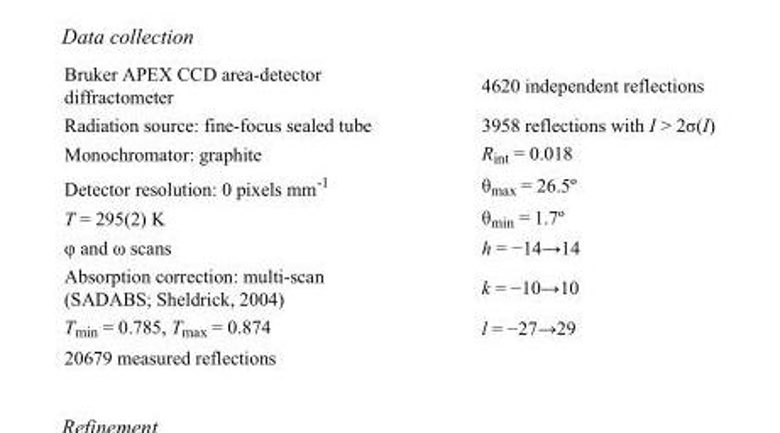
<table><tbody><tr><td>Bruker APEX CCD area-detector diffractometer</td><td>4620 independent reflections</td></tr><tr><td>Radiation source: fine-focus sealed tube</td><td>3958 reflections with I &gt; 2σ(I)</td></tr><tr><td>Monochromator: graphite</td><td>R<sub>int</sub> = 0.018</td></tr><tr><td>Detector resolution: 0 pixels mm<sup>-1</sup></td><td>θ<sub>max</sub> = 26.5º</td></tr><tr><td>T = 295(2) K</td><td>θ<sub>min</sub> = 1.7º</td></tr><tr><td>φ and ω scans</td><td>h = −14→14</td></tr><tr><td>Absorption correction: multi-scan (SADABS; Sheldrick, 2004)</td><td>k = −10→10</td></tr><tr><td>T<sub>min</sub> = 0.785, T<sub>max</sub> = 0.874</td><td>l = −27→29</td></tr><tr><td>20679 measured reflections</td><td></td></tr></tbody></table>